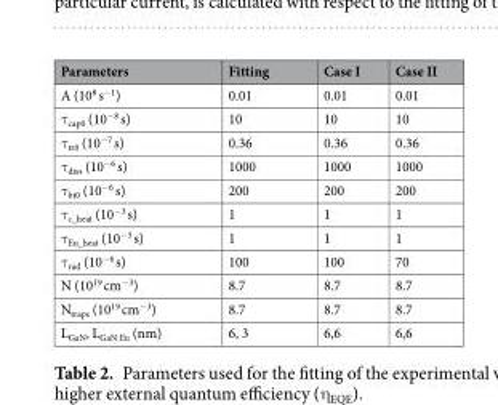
<table><thead><tr><td>Parameters</td><td>Fitting</td><td>Case I</td><td>Case II</td></tr></thead><tbody><tr><td>A (10<sup>8</sup> s<sup>−1</sup>)</td><td>0.01</td><td>0.01</td><td>0.01</td></tr><tr><td>τ<sub>cap0</sub> (10<sup>−8</sup> s)</td><td>10</td><td>10</td><td>10</td></tr><tr><td>τ<sub>tr0</sub> (10<sup>−7</sup> s)</td><td>0.36</td><td>0.36</td><td>0.36</td></tr><tr><td>τ<sub>diss</sub> (10<sup>−6</sup> s)</td><td>1000</td><td>1000</td><td>1000</td></tr><tr><td>τ<sub>bt0</sub> (10<sup>−6</sup> s)</td><td>200</td><td>200</td><td>200</td></tr><tr><td>τ<sub>c_heat</sub> (10<sup>−3</sup> s)</td><td>1</td><td>1</td><td>1</td></tr><tr><td>τ<sub>Eu_heat</sub> (10<sup>−3</sup> s)</td><td>1</td><td>1</td><td>1</td></tr><tr><td>τ<sub>rad</sub> (10<sup>−6</sup> s)</td><td>100</td><td>100</td><td>70</td></tr><tr><td>N (10<sup>19</sup> cm<sup>−3</sup>)</td><td>8.7</td><td>8.7</td><td>8.7</td></tr><tr><td>N<sub>traps</sub> (10<sup>19</sup> cm<sup>−3</sup>)</td><td>8.7</td><td>8.7</td><td>8.7</td></tr><tr><td>L<sub>GaN</sub>, L<sub>GaN:Eu</sub> (nm)</td><td>6, 3</td><td>6,6</td><td>6,6</td></tr></tbody></table>